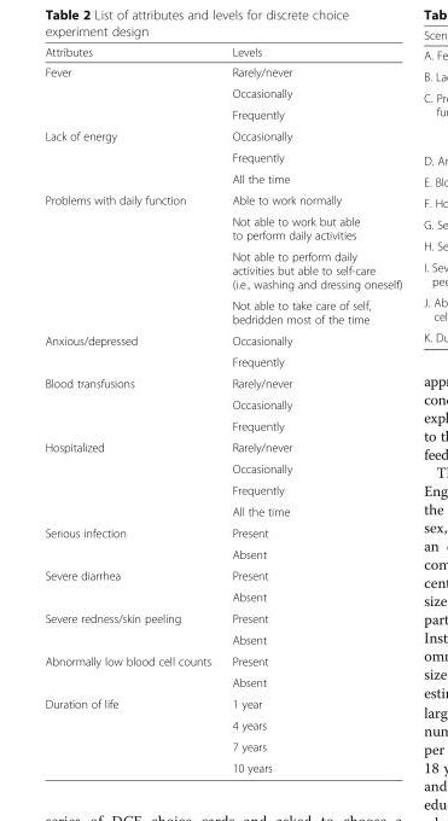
<table><thead><tr><td>Attributes</td><td>Levels</td></tr></thead><tbody><tr><td rowspan="3">Fever</td><td>Rarely/never</td></tr><tr><td>Occasionally</td></tr><tr><td>Frequently</td></tr><tr><td rowspan="3">Lack of energy</td><td>Occasionally</td></tr><tr><td>Frequently</td></tr><tr><td>All the time</td></tr><tr><td rowspan="4">Problems with daily function</td><td>Able to work normally</td></tr><tr><td>Not able to work but able to perform daily activities</td></tr><tr><td>Not able to perform daily activities but able to self-care (i.e., washing and dressing oneself)</td></tr><tr><td>Not able to take care of self, bedridden most of the time</td></tr><tr><td rowspan="2">Anxious/depressed</td><td>Occasionally</td></tr><tr><td>Frequently</td></tr><tr><td rowspan="3">Blood transfusions</td><td>Rarely/never</td></tr><tr><td>Occasionally</td></tr><tr><td>Frequently</td></tr><tr><td rowspan="4">Hospitalized</td><td>Rarely/never</td></tr><tr><td>Occasionally</td></tr><tr><td>Frequently</td></tr><tr><td>All the time</td></tr><tr><td rowspan="2">Serious infection</td><td>Present</td></tr><tr><td>Absent</td></tr><tr><td rowspan="2">Severe diarrhea</td><td>Present</td></tr><tr><td>Absent</td></tr><tr><td rowspan="2">Severe redness/skin peeling</td><td>Present</td></tr><tr><td>Absent</td></tr><tr><td rowspan="2">Abnormally low blood cell counts</td><td>Present</td></tr><tr><td>Absent</td></tr><tr><td rowspan="4">Duration of life</td><td>1 year</td></tr><tr><td>4 years</td></tr><tr><td>7 years</td></tr><tr><td>10 years</td></tr></tbody></table>